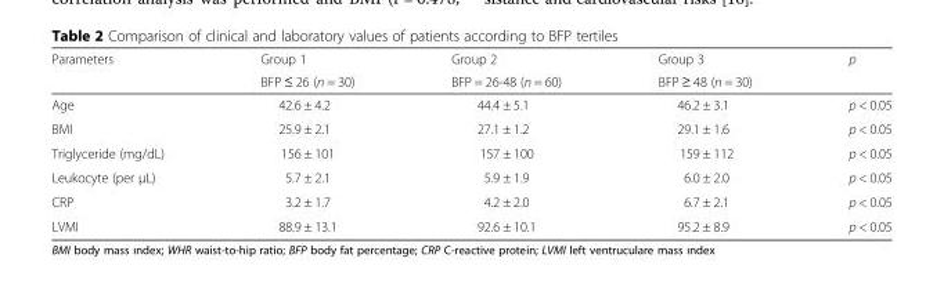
<table><thead><tr><td rowspan="2">Parameters</td><td rowspan="2">Group 1 BFP ≤ 26 (n = 30)</td><td rowspan="2">Group 2 BFP = 26-48 (n = 60)</td><td rowspan="2">Group 3 BFP ≥ 48 (n = 30)</td><td rowspan="2">p</td></tr><tr></tr></thead><tbody><tr><td>Age</td><td>42.6 ± 4.2</td><td>44.4 ± 5.1</td><td>46.2 ± 3.1</td><td>p &lt; 0.05</td></tr><tr><td>BMI</td><td>25.9 ± 2.1</td><td>27.1 ± 1.2</td><td>29.1 ± 1.6</td><td>p &lt; 0.05</td></tr><tr><td>Triglyceride (mg/dL)</td><td>156 ± 101</td><td>157 ± 100</td><td>159 ± 112</td><td>p &lt; 0.05</td></tr><tr><td>Leukocyte (per μL)</td><td>5.7 ± 2.1</td><td>5.9 ± 1.9</td><td>6.0 ± 2.0</td><td>p &lt; 0.05</td></tr><tr><td>CRP</td><td>3.2 ± 1.7</td><td>4.2 ± 2.0</td><td>6.7 ± 2.1</td><td>p &lt; 0.05</td></tr><tr><td>LVMI</td><td>88.9 ± 13.1</td><td>92.6 ± 10.1</td><td>95.2 ± 8.9</td><td>p &lt; 0.05</td></tr></tbody></table>